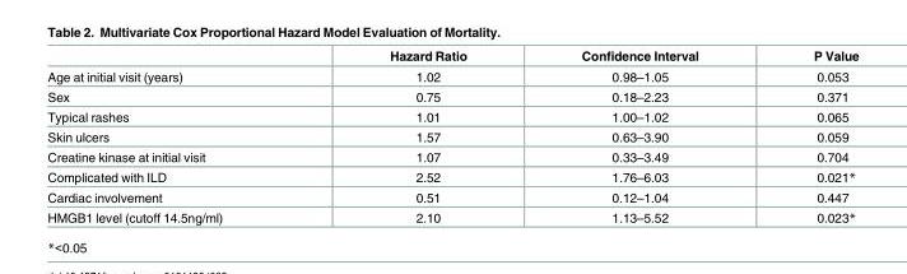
<table><thead><tr><td></td><td>Hazard Ratio</td><td>Confidence Interval</td><td>P Value</td></tr></thead><tbody><tr><td>Age at initial visit (years)</td><td>1.02</td><td>0.98–1.05</td><td>0.053</td></tr><tr><td>Sex</td><td>0.75</td><td>0.18–2.23</td><td>0.371</td></tr><tr><td>Typical rashes</td><td>1.01</td><td>1.00–1.02</td><td>0.065</td></tr><tr><td>Skin ulcers</td><td>1.57</td><td>0.63–3.90</td><td>0.059</td></tr><tr><td>Creatine kinase at initial visit</td><td>1.07</td><td>0.33–3.49</td><td>0.704</td></tr><tr><td>Complicated with ILD</td><td>2.52</td><td>1.76–6.03</td><td>0.021*</td></tr><tr><td>Cardiac involvement</td><td>0.51</td><td>0.12–1.04</td><td>0.447</td></tr><tr><td>HMGB1 level (cutoff 14.5ng/ml)</td><td>2.10</td><td>1.13–5.52</td><td>0.023*</td></tr></tbody></table>